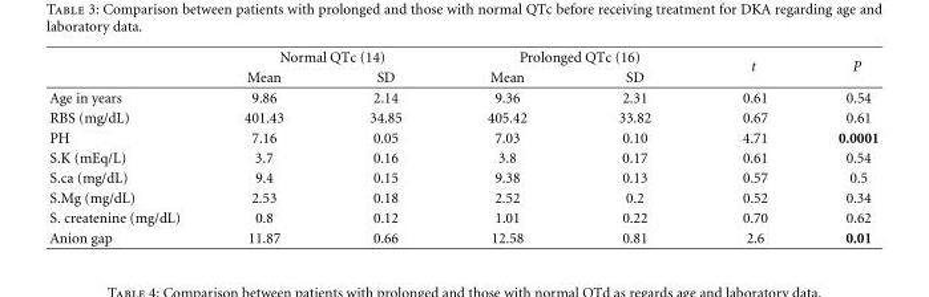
<table><thead><tr><td rowspan="2"></td><td colspan="2">Normal QTc (14)</td><td colspan="2">Prolonged QTc (16)</td><td rowspan="2">t</td><td rowspan="2">P</td></tr><tr><td>Mean</td><td>SD</td><td>Mean</td><td>SD</td></tr></thead><tbody><tr><td>Age in years</td><td>9.86</td><td>2.14</td><td>9.36</td><td>2.31</td><td>0.61</td><td>0.54</td></tr><tr><td>RBS (mg/dL)</td><td>401.43</td><td>34.85</td><td>405.42</td><td>33.82</td><td>0.67</td><td>0.61</td></tr><tr><td>PH</td><td>7.16</td><td>0.05</td><td>7.03</td><td>0.10</td><td>4.71</td><td>0.0001</td></tr><tr><td>S.K (mEq/L)</td><td>3.7</td><td>0.16</td><td>3.8</td><td>0.17</td><td>0.61</td><td>0.54</td></tr><tr><td>S.ca (mg/dL)</td><td>9.4</td><td>0.15</td><td>9.38</td><td>0.13</td><td>0.57</td><td>0.5</td></tr><tr><td>S.Mg (mg/dL)</td><td>2.53</td><td>0.18</td><td>2.52</td><td>0.2</td><td>0.52</td><td>0.34</td></tr><tr><td>S. createnine (mg/dL)</td><td>0.8</td><td>0.12</td><td>1.01</td><td>0.22</td><td>0.70</td><td>0.62</td></tr><tr><td>Anion gap</td><td>11.87</td><td>0.66</td><td>12.58</td><td>0.81</td><td>2.6</td><td>0.01</td></tr></tbody></table>